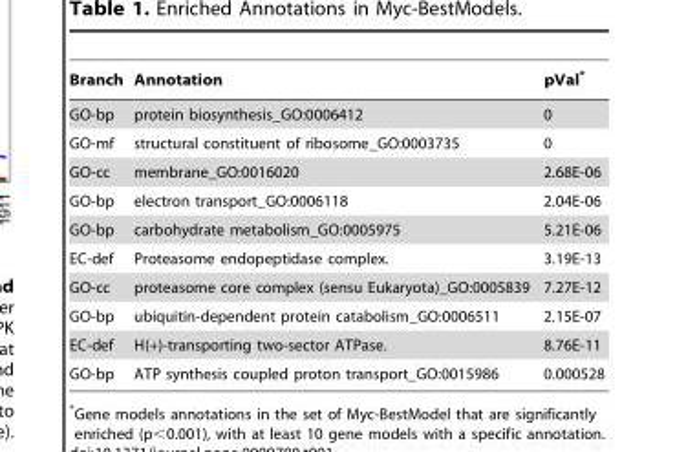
<table><thead><tr><td>Branch</td><td>Annotation</td><td>pVal*</td></tr></thead><tbody><tr><td>GO-bp</td><td>protein biosynthesis_GO:0006412</td><td>0</td></tr><tr><td>GO-mf</td><td>structural constituent of ribosome_GO:0003735</td><td>0</td></tr><tr><td>GO-cc</td><td>membrane_GO:0016020</td><td>2.68E-06</td></tr><tr><td>GO-bp</td><td>electron transport_GO:0006118</td><td>2.04E-06</td></tr><tr><td>GO-bp</td><td>carbohydrate metabolism_GO:0005975</td><td>5.21E-06</td></tr><tr><td>EC-def</td><td>Proteasome endopeptidase complex.</td><td>3.19E-13</td></tr><tr><td>GO-cc</td><td>proteasome core complex (sensu Eukaryota)_GO:0005839</td><td>7.27E-12</td></tr><tr><td>GO-bp</td><td>ubiquitin-dependent protein catabolism_GO:0006511</td><td>2.15E-07</td></tr><tr><td>EC-def</td><td>H(+)-transporting two-sector ATPase.</td><td>8.76E-11</td></tr><tr><td>GO-bp</td><td>ATP synthesis coupled proton transport_GO:0015986</td><td>0.000528</td></tr></tbody></table>